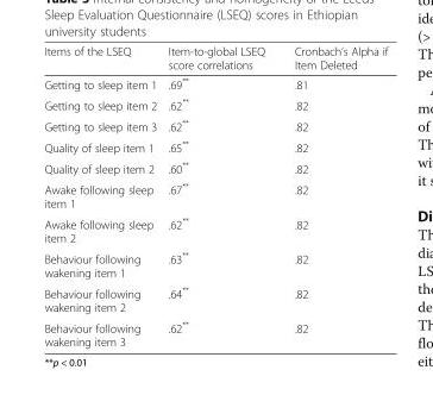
<table><thead><tr><td>Items of the LSEQ</td><td>Item-to-global LSEQ score correlations</td><td>Cronbach’s Alpha if Item Deleted</td></tr></thead><tbody><tr><td>Getting to sleep item 1</td><td>.69**</td><td>.81</td></tr><tr><td>Getting to sleep item 2</td><td>.62**</td><td>.82</td></tr><tr><td>Getting to sleep item 3</td><td>.62**</td><td>.82</td></tr><tr><td>Quality of sleep item 1</td><td>.65**</td><td>.82</td></tr><tr><td>Quality of sleep item 2</td><td>.60**</td><td>.82</td></tr><tr><td>Awake following sleep item 1</td><td>.67**</td><td>.82</td></tr><tr><td>Awake following sleep item 2</td><td>.62**</td><td>.82</td></tr><tr><td>Behaviour following wakening item 1</td><td>.63**</td><td>.82</td></tr><tr><td>Behaviour following wakening item 2</td><td>.64**</td><td>.82</td></tr><tr><td>Behaviour following wakening item 3</td><td>.62**</td><td>.82</td></tr></tbody></table>